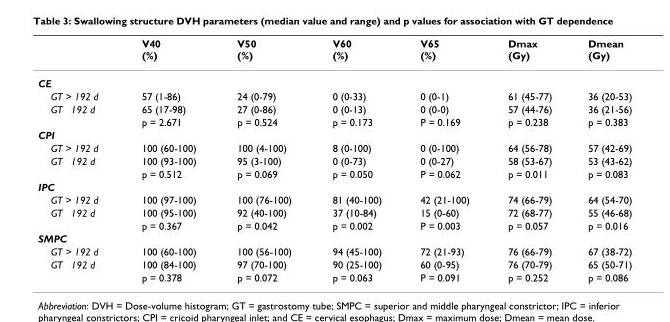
<table><thead><tr><td></td><td>V40 (%)</td><td>V50 (%)</td><td>V60 (%)</td><td>V65 (%)</td><td>Dmax (Gy)</td><td>Dmean (Gy)</td></tr></thead><tbody><tr><td colspan="7">CE</td></tr><tr><td>GT &gt; 192 d</td><td>57 (1-86)</td><td>24 (0-79)</td><td>0 (0-33)</td><td>0 (0-1)</td><td>61 (45-77)</td><td>36 (20-53)</td></tr><tr><td rowspan="2">GT 192 d</td><td>65 (17-98)</td><td>27 (0-86)</td><td>0 (0-13)</td><td>0 (0-0)</td><td>57 (44-76)</td><td>36 (21-56)</td></tr><tr><td>p = 2.671</td><td>p = 0.524</td><td>p = 0.173</td><td>P = 0.169</td><td>p = 0.238</td><td>p = 0.383</td></tr><tr><td colspan="7">CPI</td></tr><tr><td>GT &gt; 192 d</td><td>100 (60-100)</td><td>100 (4-100)</td><td>8 (0-100)</td><td>0 (0-100)</td><td>64 (56-78)</td><td>57 (42-69)</td></tr><tr><td rowspan="2">GT 192 d</td><td>100 (93-100)</td><td>95 (3-100)</td><td>0 (0-73)</td><td>0 (0-27)</td><td>58 (53-67)</td><td>53 (43-62)</td></tr><tr><td>p = 0.512</td><td>p = 0.069</td><td>p = 0.050</td><td>P = 0.062</td><td>p = 0.011</td><td>p = 0.083</td></tr><tr><td colspan="7">IPC</td></tr><tr><td>GT &gt; 192 d</td><td>100 (97-100)</td><td>100 (76-100)</td><td>81 (40-100)</td><td>42 (21-100)</td><td>74 (66-79)</td><td>64 (54-70)</td></tr><tr><td rowspan="2">GT 192 d</td><td>100 (95-100)</td><td>92 (40-100)</td><td>37 (10-84)</td><td>15 (0-60)</td><td>72 (68-77)</td><td>55 (46-68)</td></tr><tr><td>p = 0.367</td><td>p = 0.042</td><td>p = 0.002</td><td>P = 0.003</td><td>p = 0.057</td><td>p = 0.016</td></tr><tr><td colspan="7">SMPC</td></tr><tr><td>GT &gt; 192 d</td><td>100 (60-100)</td><td>100 (56-100)</td><td>94 (45-100)</td><td>72 (21-93)</td><td>76 (66-79)</td><td>67 (38-72)</td></tr><tr><td rowspan="2">GT 192 d</td><td>100 (84-100)</td><td>97 (70-100)</td><td>90 (25-100)</td><td>60 (0-95)</td><td>76 (70-79)</td><td>65 (50-71)</td></tr><tr><td>p = 0.378</td><td>p = 0.072</td><td>p = 0.063</td><td>P = 0.091</td><td>p = 0.252</td><td>p = 0.086</td></tr></tbody></table>